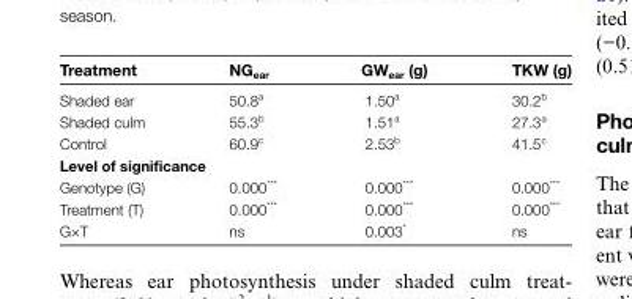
<table><thead><tr><td>Treatment</td><td>NG<sub>ear</sub></td><td>GW<sub>ear</sub> (g)</td><td>TKW (g)</td></tr></thead><tbody><tr><td>Shaded ear</td><td>50.8<sup>a</sup></td><td>1.50<sup>a</sup></td><td>30.2<sup>b</sup></td></tr><tr><td>Shaded culm</td><td>55.3<sup>b</sup></td><td>1.51<sup>a</sup></td><td>27.3<sup>a</sup></td></tr><tr><td>Control</td><td>60.9<sup>c</sup></td><td>2.53<sup>b</sup></td><td>41.5<sup>c</sup></td></tr><tr><td colspan="4">Level of significance</td></tr><tr><td>Genotype (G)</td><td>0.000***</td><td>0.000***</td><td>0.000***</td></tr><tr><td>Treatment (T)</td><td>0.000***</td><td>0.000***</td><td>0.000***</td></tr><tr><td>G×T</td><td>ns</td><td>0.003*</td><td>ns</td></tr></tbody></table>